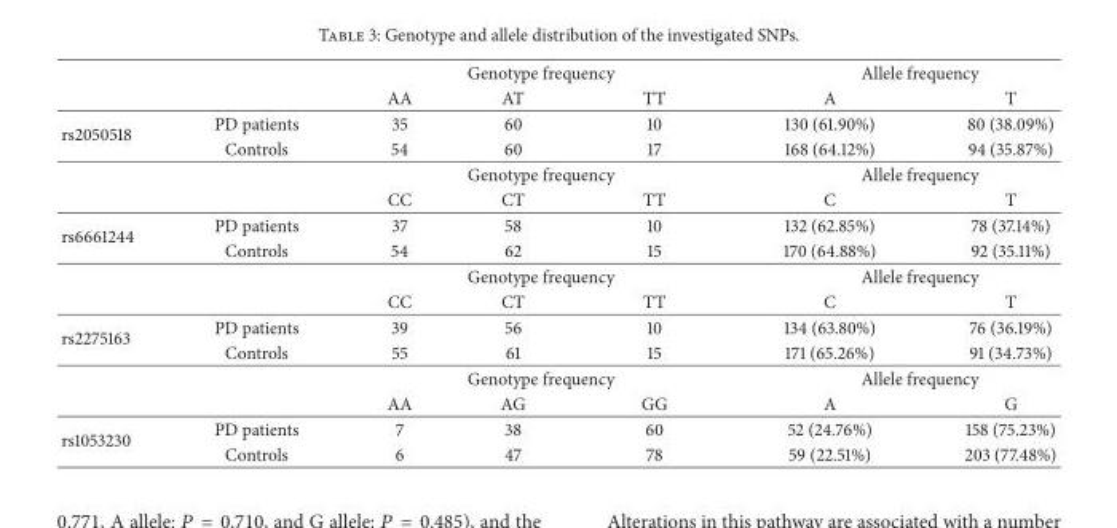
<table><thead><tr><td rowspan="2"></td><td rowspan="2"></td><td colspan="3">Genotype frequency</td><td colspan="2">Allele frequency</td></tr><tr><td>AA</td><td>AT</td><td>TT</td><td>A</td><td>T</td></tr></thead><tbody><tr><td rowspan="4">rs2050518</td><td>PD patients</td><td>35</td><td>60</td><td>10</td><td>130 (61.90%)</td><td>80 (38.09%)</td></tr><tr><td>Controls</td><td>54</td><td>60</td><td>17</td><td>168 (64.12%)</td><td>94 (35.87%)</td></tr><tr><td></td><td colspan="3">Genotype frequency</td><td colspan="2">Allele frequency</td></tr><tr><td></td><td>CC</td><td>CT</td><td>TT</td><td>C</td><td>T</td></tr><tr><td rowspan="4">rs6661244</td><td>PD patients</td><td>37</td><td>58</td><td>10</td><td>132 (62.85%)</td><td>78 (37.14%)</td></tr><tr><td>Controls</td><td>54</td><td>62</td><td>15</td><td>170 (64.88%)</td><td>92 (35.11%)</td></tr><tr><td></td><td colspan="3">Genotype frequency</td><td colspan="2">Allele frequency</td></tr><tr><td></td><td>CC</td><td>CT</td><td>TT</td><td>C</td><td>T</td></tr><tr><td rowspan="4">rs2275163</td><td>PD patients</td><td>39</td><td>56</td><td>10</td><td>134 (63.80%)</td><td>76 (36.19%)</td></tr><tr><td>Controls</td><td>55</td><td>61</td><td>15</td><td>171 (65.26%)</td><td>91 (34.73%)</td></tr><tr><td></td><td colspan="3">Genotype frequency</td><td colspan="2">Allele frequency</td></tr><tr><td></td><td>AA</td><td>AG</td><td>GG</td><td>A</td><td>G</td></tr><tr><td rowspan="2">rs1053230</td><td>PD patients</td><td>7</td><td>38</td><td>60</td><td>52 (24.76%)</td><td>158 (75.23%)</td></tr><tr><td>Controls</td><td>6</td><td>47</td><td>78</td><td>59 (22.51%)</td><td>203 (77.48%)</td></tr></tbody></table>